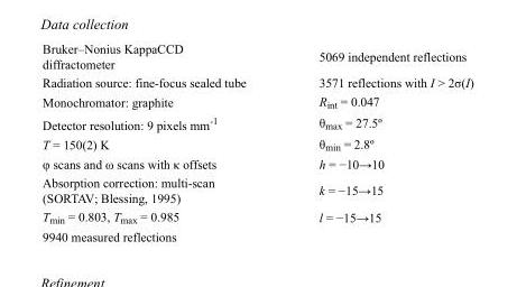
<table><tbody><tr><td>Bruker–Nonius KappaCCD diffractometer</td><td>5069 independent reflections</td></tr><tr><td>Radiation source: fine-focus sealed tube</td><td>3571 reflections with I &gt; 2σ(I)</td></tr><tr><td>Monochromator: graphite</td><td>R<sub>int</sub> = 0.047</td></tr><tr><td>Detector resolution: 9 pixels mm<sup>-1</sup></td><td>θ<sub>max</sub> = 27.5º</td></tr><tr><td>T = 150(2) K</td><td>θ<sub>min</sub> = 2.8º</td></tr><tr><td>φ scans and ω scans with κ offsets</td><td>h = −10→10</td></tr><tr><td>Absorption correction: multi-scan (SORTAV; Blessing, 1995)</td><td>k = −15→15</td></tr><tr><td>T<sub>min</sub> = 0.803, T<sub>max</sub> = 0.985</td><td>l = −15→15</td></tr><tr><td>9940 measured reflections</td><td></td></tr></tbody></table>